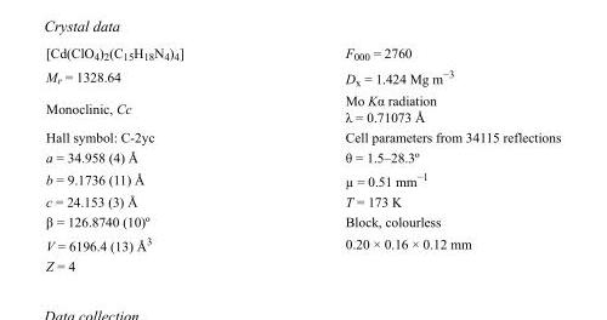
<table><tbody><tr><td>[Cd(ClO<sub>4</sub>)<sub>2</sub>(C<sub>15</sub>H<sub>18</sub>N<sub>4</sub>)<sub>4</sub>]</td><td>F000 = 2760</td></tr><tr><td>M<sub>r</sub> = 1328.64</td><td>D<sub>x</sub> = 1.424 Mg m<sup>−3</sup></td></tr><tr><td>Monoclinic, Cc</td><td>Mo Kα radiation λ = 0.71073 Å</td></tr><tr><td>Hall symbol: C-2yc</td><td>Cell parameters from 34115 reflections</td></tr><tr><td>a = 34.958 (4) Å</td><td>θ = 1.5–28.3º</td></tr><tr><td>b = 9.1736 (11) Å</td><td>µ = 0.51 mm<sup>−1</sup></td></tr><tr><td>c = 24.153 (3) Å</td><td>T = 173 K</td></tr><tr><td>β = 126.8740 (10)º</td><td>Block, colourless</td></tr><tr><td>V = 6196.4 (13) Å<sup>3</sup></td><td>0.20 × 0.16 × 0.12 mm</td></tr><tr><td>Z = 4</td><td></td></tr></tbody></table>